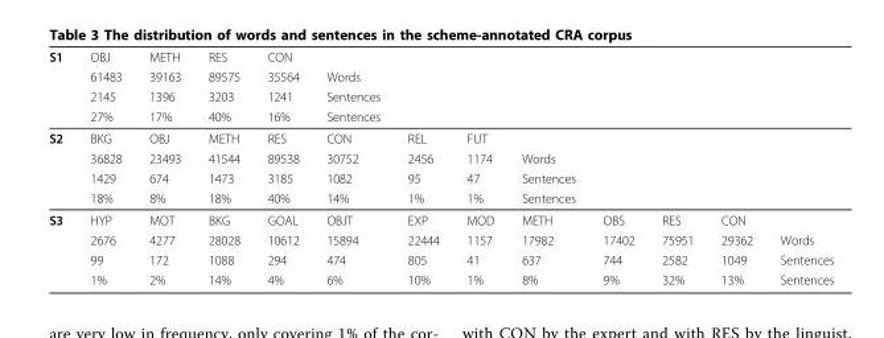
<table><thead><tr><td rowspan="4">S1</td><td rowspan="4">OBJ 61483 2145 27%</td><td rowspan="4">METH 39163 1396 17%</td><td rowspan="4">RES 89575 3203 40%</td><td rowspan="4">CON 35564 1241 16%</td><td rowspan="4">Words Sentences Sentences</td><td rowspan="4"></td><td rowspan="4"></td><td rowspan="4"></td><td rowspan="4"></td><td rowspan="4"></td><td rowspan="4"></td><td rowspan="4"></td></tr><tr></tr><tr></tr><tr></tr></thead><tbody><tr><td rowspan="4">S2</td><td>BKG</td><td>OBJ</td><td>METH</td><td>RES</td><td>CON</td><td>REL</td><td>FUT</td><td></td><td></td><td></td><td></td><td></td></tr><tr><td>36828</td><td>23493</td><td>41544</td><td>89538</td><td>30752</td><td>2456</td><td>1174</td><td>Words</td><td></td><td></td><td></td><td></td></tr><tr><td>1429</td><td>674</td><td>1473</td><td>3185</td><td>1082</td><td>95</td><td>47</td><td>Sentences</td><td></td><td></td><td></td><td></td></tr><tr><td>18%</td><td>8%</td><td>18%</td><td>40%</td><td>14%</td><td>1%</td><td>1%</td><td>Sentences</td><td></td><td></td><td></td><td></td></tr><tr><td rowspan="4">S3</td><td>HYP</td><td>MOT</td><td>BKG</td><td>GOAL</td><td>OBJT</td><td>EXP</td><td>MOD</td><td>METH</td><td>OBS</td><td>RES</td><td>CON</td><td></td></tr><tr><td>2676</td><td>4277</td><td>28028</td><td>10612</td><td>15894</td><td>22444</td><td>1157</td><td>17982</td><td>17402</td><td>75951</td><td>29362</td><td>Words</td></tr><tr><td>99</td><td>172</td><td>1088</td><td>294</td><td>474</td><td>805</td><td>41</td><td>637</td><td>744</td><td>2582</td><td>1049</td><td>Sentences</td></tr><tr><td>1%</td><td>2%</td><td>14%</td><td>4%</td><td>6%</td><td>10%</td><td>1%</td><td>8%</td><td>9%</td><td>32%</td><td>13%</td><td>Sentences</td></tr></tbody></table>